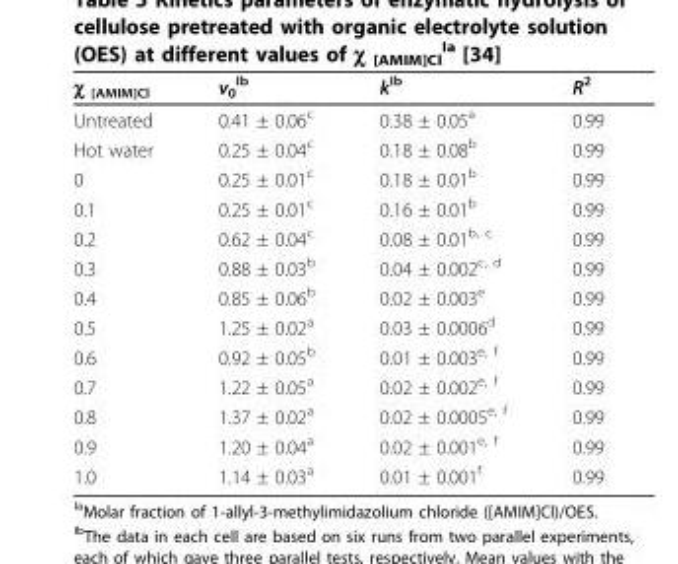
<table><thead><tr><td>χ <sub>[AMIM]Cl</sub></td><td>v<sub>0</sub> <sup>Ib</sup></td><td>k<sup>Ib</sup></td><td>R<sup>2</sup></td></tr></thead><tbody><tr><td>Untreated</td><td>0.41 ± 0.06<sup>c</sup></td><td>0.38 ± 0.05<sup>a</sup></td><td>0.99</td></tr><tr><td>Hot water</td><td>0.25 ± 0.04<sup>c</sup></td><td>0.18 ± 0.08<sup>b</sup></td><td>0.99</td></tr><tr><td>0</td><td>0.25 ± 0.01<sup>c</sup></td><td>0.18 ± 0.01<sup>b</sup></td><td>0.99</td></tr><tr><td>0.1</td><td>0.25 ± 0.01<sup>c</sup></td><td>0.16 ± 0.01<sup>b</sup></td><td>0.99</td></tr><tr><td>0.2</td><td>0.62 ± 0.04<sup>c</sup></td><td>0.08 ± 0.01<sup>b, c</sup></td><td>0.99</td></tr><tr><td>0.3</td><td>0.88 ± 0.03<sup>b</sup></td><td>0.04 ± 0.002<sup>c, d</sup></td><td>0.99</td></tr><tr><td>0.4</td><td>0.85 ± 0.06<sup>b</sup></td><td>0.02 ± 0.003<sup>e</sup></td><td>0.99</td></tr><tr><td>0.5</td><td>1.25 ± 0.02<sup>a</sup></td><td>0.03 ± 0.0006<sup>d</sup></td><td>0.99</td></tr><tr><td>0.6</td><td>0.92 ± 0.05<sup>b</sup></td><td>0.01 ± 0.003<sup>e, f</sup></td><td>0.99</td></tr><tr><td>0.7</td><td>1.22 ± 0.05<sup>a</sup></td><td>0.02 ± 0.002<sup>e, f</sup></td><td>0.99</td></tr><tr><td>0.8</td><td>1.37 ± 0.02<sup>a</sup></td><td>0.02 ± 0.0005<sup>e, f</sup></td><td>0.99</td></tr><tr><td>0.9</td><td>1.20 ± 0.04<sup>a</sup></td><td>0.02 ± 0.001<sup>e, f</sup></td><td>0.99</td></tr><tr><td>1.0</td><td>1.14 ± 0.03<sup>a</sup></td><td>0.01 ± 0.001<sup>f</sup></td><td>0.99</td></tr></tbody></table>